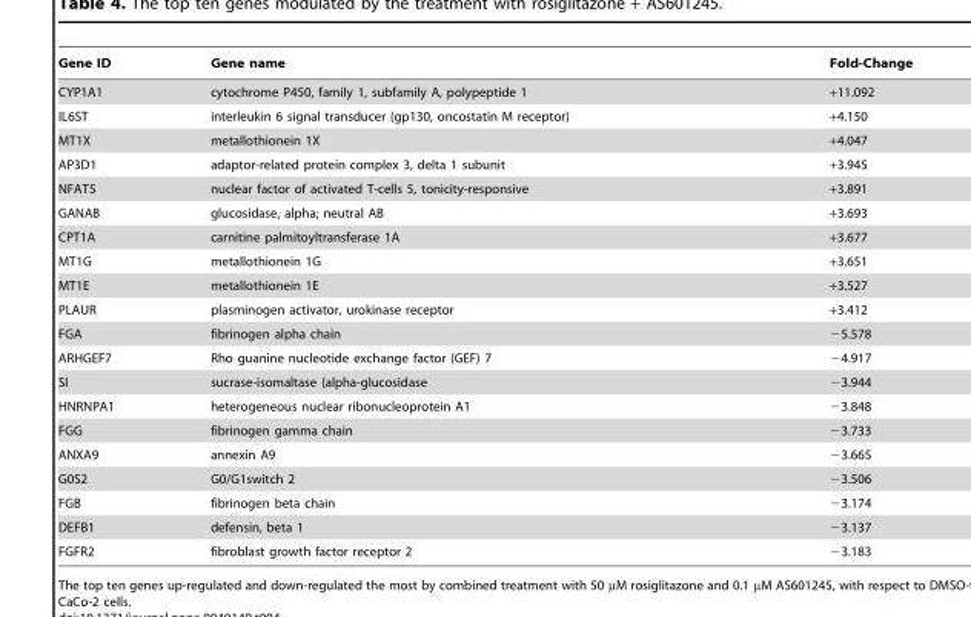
<table><thead><tr><td>Gene ID</td><td>Gene name</td><td>Fold-Change</td></tr></thead><tbody><tr><td>CYP1A1</td><td>cytochrome P450, family 1, subfamily A, polypeptide 1</td><td>+11.092</td></tr><tr><td>IL6ST</td><td>interleukin 6 signal transducer (gp130, oncostatin M receptor)</td><td>+4.150</td></tr><tr><td>MT1X</td><td>metallothionein 1X</td><td>+4.047</td></tr><tr><td>AP3D1</td><td>adaptor-related protein complex 3, delta 1 subunit</td><td>+3.945</td></tr><tr><td>NFAT5</td><td>nuclear factor of activated T-cells 5, tonicity-responsive</td><td>+3.891</td></tr><tr><td>GANAB</td><td>glucosidase, alpha; neutral AB</td><td>+3.693</td></tr><tr><td>CPT1A</td><td>carnitine palmitoyltransferase 1A</td><td>+3.677</td></tr><tr><td>MT1G</td><td>metallothionein 1G</td><td>+3.651</td></tr><tr><td>MT1E</td><td>metallothionein 1E</td><td>+3.527</td></tr><tr><td>PLAUR</td><td>plasminogen activator, urokinase receptor</td><td>+3.412</td></tr><tr><td>FGA</td><td>fibrinogen alpha chain</td><td>−5.578</td></tr><tr><td>ARHGEF7</td><td>Rho guanine nucleotide exchange factor (GEF) 7</td><td>−4.917</td></tr><tr><td>SI</td><td>sucrase-isomaltase (alpha-glucosidase</td><td>−3.944</td></tr><tr><td>HNRNPA1</td><td>heterogeneous nuclear ribonucleoprotein A1</td><td>−3.848</td></tr><tr><td>FGG</td><td>fibrinogen gamma chain</td><td>−3.733</td></tr><tr><td>ANXA9</td><td>annexin A9</td><td>−3.665</td></tr><tr><td>G0S2</td><td>G0/G1switch 2</td><td>−3.506</td></tr><tr><td>FGB</td><td>fibrinogen beta chain</td><td>−3.174</td></tr><tr><td>DEFB1</td><td>defensin, beta 1</td><td>−3.137</td></tr><tr><td>FGFR2</td><td>fibroblast growth factor receptor 2</td><td>−3.183</td></tr></tbody></table>